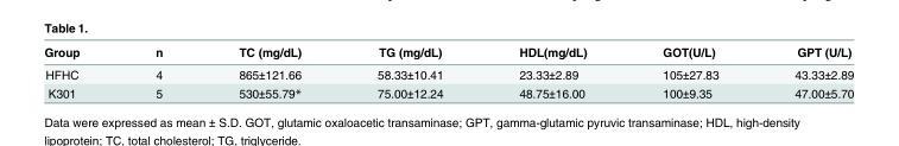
<table><thead><tr><td>Group</td><td>n</td><td>TC (mg/dL)</td><td>TG (mg/dL)</td><td>HDL(mg/dL)</td><td>GOT(U/L)</td><td>GPT (U/L)</td></tr></thead><tbody><tr><td>HFHC</td><td>4</td><td>865±121.66</td><td>58.33±10.41</td><td>23.33±2.89</td><td>105±27.83</td><td>43.33±2.89</td></tr><tr><td>K301</td><td>5</td><td>530±55.79*</td><td>75.00±12.24</td><td>48.75±16.00</td><td>100±9.35</td><td>47.00±5.70</td></tr></tbody></table>